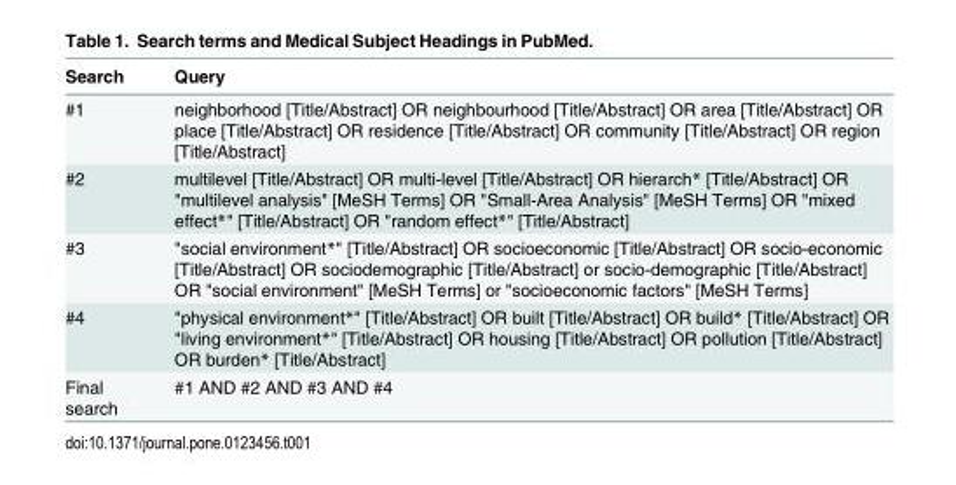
<table><thead><tr><td>Search</td><td>Query</td></tr></thead><tbody><tr><td>#1</td><td>neighborhood [Title/Abstract] OR neighbourhood [Title/Abstract] OR area [Title/Abstract] OR place [Title/Abstract] OR residence [Title/Abstract] OR community [Title/Abstract] OR region [Title/Abstract]</td></tr><tr><td>#2</td><td>multilevel [Title/Abstract] OR multi-level [Title/Abstract] OR hierarch* [Title/Abstract] OR &quot;multilevel analysis&quot; [MeSH Terms] OR &quot;Small-Area Analysis&quot; [MeSH Terms] OR &quot;mixed effect*&quot; [Title/Abstract] OR &quot;random effect*&quot; [Title/Abstract]</td></tr><tr><td>#3</td><td>&quot;social environment*&quot; [Title/Abstract] OR socioeconomic [Title/Abstract] OR socio-economic [Title/Abstract] OR sociodemographic [Title/Abstract] or socio-demographic [Title/Abstract] OR &quot;social environment&quot; [MeSH Terms] or &quot;socioeconomic factors&quot; [MeSH Terms]</td></tr><tr><td>#4</td><td>&quot;physical environment*&quot; [Title/Abstract] OR built [Title/Abstract] OR build* [Title/Abstract] OR &quot;living environment*&quot; [Title/Abstract] OR housing [Title/Abstract] OR pollution [Title/Abstract] OR burden* [Title/Abstract]</td></tr><tr><td>Final search</td><td>#1 AND #2 AND #3 AND #4</td></tr></tbody></table>